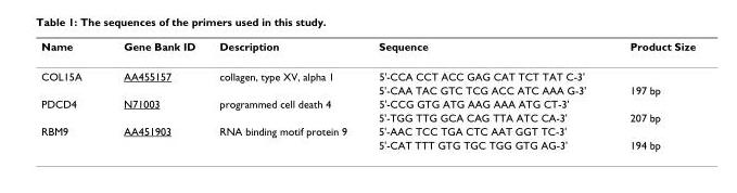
<table><thead><tr><td>Name</td><td>Gene Bank ID</td><td>Description</td><td>Sequence</td><td>Product Size</td></tr></thead><tbody><tr><td rowspan="2">COL15A</td><td>AA455157</td><td>collagen, type XV, alpha 1</td><td>5&#x27;-CCA CCT ACC GAG CAT TCT TAT C-3&#x27;</td><td></td></tr><tr><td></td><td></td><td>5&#x27;-CAA TAC GTC TCG ACC ATC AAA G-3&#x27;</td><td>197 bp</td></tr><tr><td rowspan="2">PDCD4</td><td>N71003</td><td>programmed cell death 4</td><td>5&#x27;-CCG GTG ATG AAG AAA ATG CT-3&#x27;</td><td></td></tr><tr><td></td><td></td><td>5&#x27;-TGG TTG GCA CAG TTA ATC CA-3&#x27;</td><td>207 bp</td></tr><tr><td rowspan="2">RBM9</td><td>AA451903</td><td>RNA binding motif protein 9</td><td>5&#x27;-AAC TCC TGA CTC AAT GGT TC-3&#x27;</td><td></td></tr><tr><td></td><td></td><td>5&#x27;-CAT TTT GTG TGC TGG GTG AG-3&#x27;</td><td>194 bp</td></tr></tbody></table>